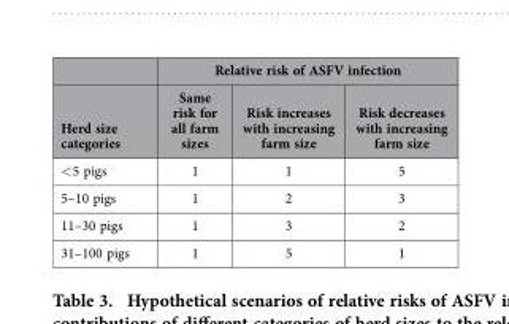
<table><thead><tr><td rowspan="2">Herd size categories</td><td colspan="3">Relative risk of ASFV infection</td></tr><tr><td>Same risk for all farm sizes</td><td>Risk increases with increasing farm size</td><td>Risk decreases with increasing farm size</td></tr></thead><tbody><tr><td>&lt; 5 pigs</td><td>1</td><td>1</td><td>5</td></tr><tr><td>5–10 pigs</td><td>1</td><td>2</td><td>3</td></tr><tr><td>11–30 pigs</td><td>1</td><td>3</td><td>2</td></tr><tr><td>31–100 pigs</td><td>1</td><td>5</td><td>1</td></tr></tbody></table>